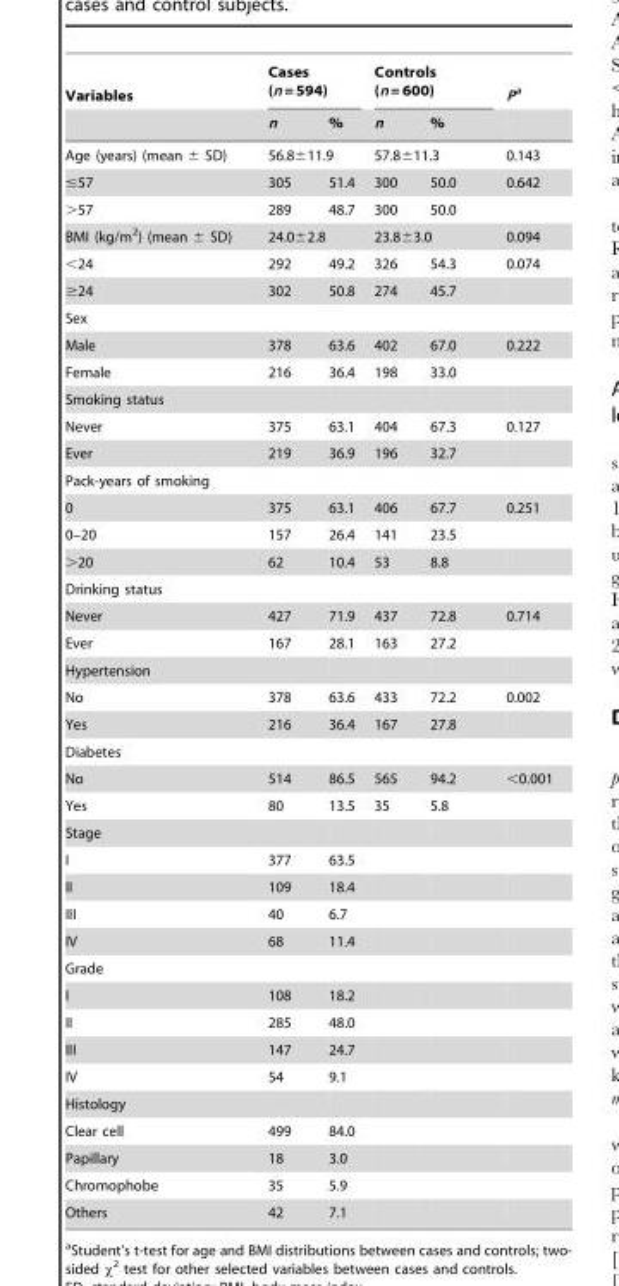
<table><thead><tr><td rowspan="2">Variables</td><td colspan="2">Cases (n = 594)</td><td colspan="2">Controls (n = 600)</td><td rowspan="2">Pa</td></tr><tr><td>n</td><td>%</td><td>n</td><td>%</td></tr></thead><tbody><tr><td>Age (years) (mean ± SD)</td><td colspan="2">56.8±11.9</td><td colspan="2">57.8±11.3</td><td>0.143</td></tr><tr><td>≤57</td><td>305</td><td>51.4</td><td>300</td><td>50.0</td><td>0.642</td></tr><tr><td>&gt;57</td><td>289</td><td>48.7</td><td>300</td><td>50.0</td><td></td></tr><tr><td>BMI (kg/m<sup>2</sup>) (mean ± SD)</td><td colspan="2">24.0±2.8</td><td colspan="2">23.8±3.0</td><td>0.094</td></tr><tr><td>&lt;24</td><td>292</td><td>49.2</td><td>326</td><td>54.3</td><td>0.074</td></tr><tr><td>≥24</td><td>302</td><td>50.8</td><td>274</td><td>45.7</td><td></td></tr><tr><td colspan="6">Sex</td></tr><tr><td>Male</td><td>378</td><td>63.6</td><td>402</td><td>67.0</td><td>0.222</td></tr><tr><td>Female</td><td>216</td><td>36.4</td><td>198</td><td>33.0</td><td></td></tr><tr><td colspan="6">Smoking status</td></tr><tr><td>Never</td><td>375</td><td>63.1</td><td>404</td><td>67.3</td><td>0.127</td></tr><tr><td>Ever</td><td>219</td><td>36.9</td><td>196</td><td>32.7</td><td></td></tr><tr><td colspan="6">Pack-years of smoking</td></tr><tr><td>0</td><td>375</td><td>63.1</td><td>406</td><td>67.7</td><td>0.251</td></tr><tr><td>0–20</td><td>157</td><td>26.4</td><td>141</td><td>23.5</td><td></td></tr><tr><td>&gt;20</td><td>62</td><td>10.4</td><td>53</td><td>8.8</td><td></td></tr><tr><td colspan="6">Drinking status</td></tr><tr><td>Never</td><td>427</td><td>71.9</td><td>437</td><td>72.8</td><td>0.714</td></tr><tr><td>Ever</td><td>167</td><td>28.1</td><td>163</td><td>27.2</td><td></td></tr><tr><td colspan="6">Hypertension</td></tr><tr><td>No</td><td>378</td><td>63.6</td><td>433</td><td>72.2</td><td>0.002</td></tr><tr><td>Yes</td><td>216</td><td>36.4</td><td>167</td><td>27.8</td><td></td></tr><tr><td colspan="6">Diabetes</td></tr><tr><td>No</td><td>514</td><td>86.5</td><td>565</td><td>94.2</td><td>&lt;0.001</td></tr><tr><td>Yes</td><td>80</td><td>13.5</td><td>35</td><td>5.8</td><td></td></tr><tr><td colspan="6">Stage</td></tr><tr><td>I</td><td>377</td><td>63.5</td><td></td><td></td><td></td></tr><tr><td>II</td><td>109</td><td>18.4</td><td></td><td></td><td></td></tr><tr><td>III</td><td>40</td><td>6.7</td><td></td><td></td><td></td></tr><tr><td>IV</td><td>68</td><td>11.4</td><td></td><td></td><td></td></tr><tr><td colspan="6">Grade</td></tr><tr><td>I</td><td>108</td><td>18.2</td><td></td><td></td><td></td></tr><tr><td>II</td><td>285</td><td>48.0</td><td></td><td></td><td></td></tr><tr><td>III</td><td>147</td><td>24.7</td><td></td><td></td><td></td></tr><tr><td>IV</td><td>54</td><td>9.1</td><td></td><td></td><td></td></tr><tr><td colspan="6">Histology</td></tr><tr><td>Clear cell</td><td>499</td><td>84.0</td><td></td><td></td><td></td></tr><tr><td>Papillary</td><td>18</td><td>3.0</td><td></td><td></td><td></td></tr><tr><td>Chromophobe</td><td>35</td><td>5.9</td><td></td><td></td><td></td></tr><tr><td>Others</td><td>42</td><td>7.1</td><td></td><td></td><td></td></tr></tbody></table>